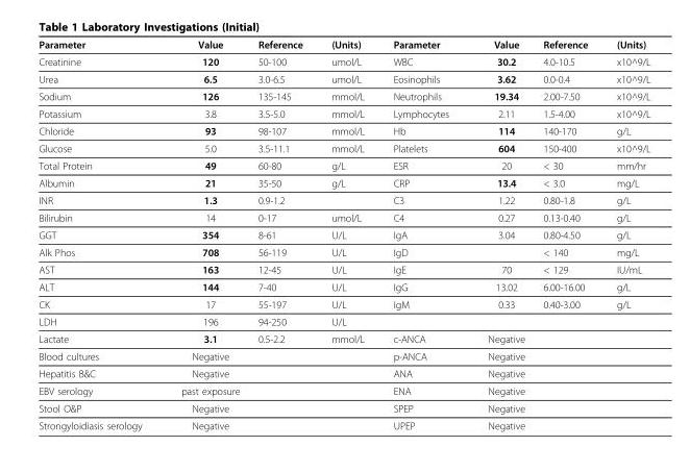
<table><tbody><tr><td>Parameter</td><td>Value</td><td>Reference</td><td>(Units)</td><td>Parameter</td><td>Value</td><td>Reference</td><td>(Units)</td></tr><tr><td>Creatinine</td><td>120</td><td>50-100</td><td>umol/L</td><td>WBC</td><td>30.2</td><td>4.0-10.5</td><td>x10^9/L</td></tr><tr><td>Urea</td><td>6.5</td><td>3.0-6.5</td><td>umol/L</td><td>Eosinophils</td><td>3.62</td><td>0.0-0.4</td><td>x10^9/L</td></tr><tr><td>Sodium</td><td>126</td><td>135-145</td><td>mmol/L</td><td>Neutrophils</td><td>19.34</td><td>2.00-7.50</td><td>x10^9/L</td></tr><tr><td>Potassium</td><td>3.8</td><td>3.5-5.0</td><td>mmol/L</td><td>Lymphocytes</td><td>2.11</td><td>1.5-4.00</td><td>x10^9/L</td></tr><tr><td>Chloride</td><td>93</td><td>98-107</td><td>mmol/L</td><td>Hb</td><td>114</td><td>140-170</td><td>g/L</td></tr><tr><td>Glucose</td><td>5.0</td><td>3.5-11.1</td><td>mmol/L</td><td>Platelets</td><td>604</td><td>150-400</td><td>x10^9/L</td></tr><tr><td>Total Protein</td><td>49</td><td>60-80</td><td>g/L</td><td>ESR</td><td>20</td><td>&lt; 30</td><td>mm/hr</td></tr><tr><td>Albumin</td><td>21</td><td>35-50</td><td>g/L</td><td>CRP</td><td>13.4</td><td>&lt; 3.0</td><td>mg/L</td></tr><tr><td>INR</td><td>1.3</td><td>0.9-1.2</td><td></td><td>C3</td><td>1.22</td><td>0.80-1.8</td><td>g/L</td></tr><tr><td>Bilirubin</td><td>14</td><td>0-17</td><td>umol/L</td><td>C4</td><td>0.27</td><td>0.13-0.40</td><td>g/L</td></tr><tr><td>GGT</td><td>354</td><td>8-61</td><td>U/L</td><td>IgA</td><td>3.04</td><td>0.80-4.50</td><td>g/L</td></tr><tr><td>Alk Phos</td><td>708</td><td>56-119</td><td>U/L</td><td>IgD</td><td></td><td>&lt; 140</td><td>mg/L</td></tr><tr><td>AST</td><td>163</td><td>12-45</td><td>U/L</td><td>IgE</td><td>70</td><td>&lt; 129</td><td>IU/mL</td></tr><tr><td>ALT</td><td>144</td><td>7-40</td><td>U/L</td><td>IgG</td><td>13.02</td><td>6.00-16.00</td><td>g/L</td></tr><tr><td>CK</td><td>17</td><td>55-197</td><td>U/L</td><td>IgM</td><td>0.33</td><td>0.40-3.00</td><td>g/L</td></tr><tr><td>LDH</td><td>196</td><td>94-250</td><td>U/L</td><td></td><td></td><td></td><td></td></tr><tr><td>Lactate</td><td>3.1</td><td>0.5-2.2</td><td>mmol/L</td><td>c-ANCA</td><td>Negative</td><td></td><td></td></tr><tr><td>Blood cultures</td><td>Negative</td><td></td><td></td><td>p-ANCA</td><td>Negative</td><td></td><td></td></tr><tr><td>Hepatitis B&amp;C</td><td>Negative</td><td></td><td></td><td>ANA</td><td>Negative</td><td></td><td></td></tr><tr><td>EBV serology</td><td>past exposure</td><td></td><td></td><td>ENA</td><td>Negative</td><td></td><td></td></tr><tr><td>Stool O&amp;P</td><td>Negative</td><td></td><td></td><td>SPEP</td><td>Negative</td><td></td><td></td></tr><tr><td>Strongyloidiasis serology</td><td>Negative</td><td></td><td></td><td>UPEP</td><td>Negative</td><td></td><td></td></tr></tbody></table>